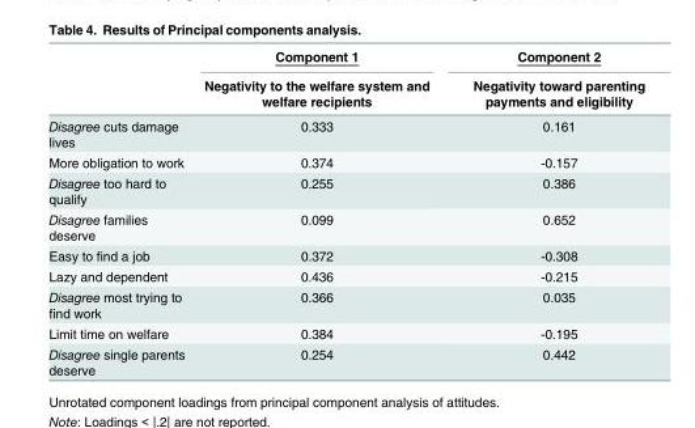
<table><thead><tr><td rowspan="2"></td><td rowspan="2">Component 1 Negativity to the welfare system and welfare recipients</td><td rowspan="2">Component 2 Negativity toward parenting payments and eligibility</td></tr><tr></tr></thead><tbody><tr><td>Disagree cuts damage lives</td><td>0.333</td><td>0.161</td></tr><tr><td>More obligation to work</td><td>0.374</td><td>-0.157</td></tr><tr><td>Disagree too hard to qualify</td><td>0.255</td><td>0.386</td></tr><tr><td>Disagree families deserve</td><td>0.099</td><td>0.652</td></tr><tr><td>Easy to find a job</td><td>0.372</td><td>-0.308</td></tr><tr><td>Lazy and dependent</td><td>0.436</td><td>-0.215</td></tr><tr><td>Disagree most trying to find work</td><td>0.366</td><td>0.035</td></tr><tr><td>Limit time on welfare</td><td>0.384</td><td>-0.195</td></tr><tr><td>Disagree single parents deserve</td><td>0.254</td><td>0.442</td></tr></tbody></table>